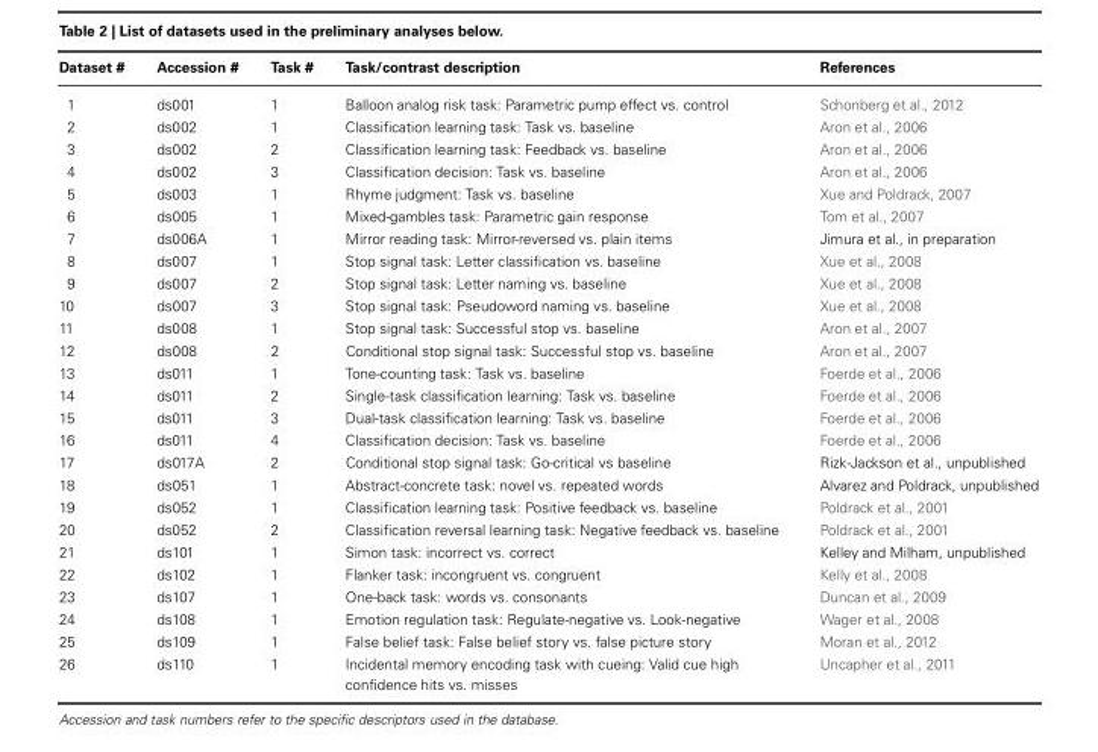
<table><thead><tr><td>Dataset #</td><td>Accession #</td><td>Task #</td><td>Task/contrast description</td><td>References</td></tr></thead><tbody><tr><td>1</td><td>ds001</td><td>1</td><td>Balloon analog risk task: Parametric pump effect vs. control</td><td>Schonberg et al., 2012</td></tr><tr><td>2</td><td>ds002</td><td>1</td><td>Classification learning task: Task vs. baseline</td><td>Aron et al., 2006</td></tr><tr><td>3</td><td>ds002</td><td>2</td><td>Classification learning task: Feedback vs. baseline</td><td>Aron et al., 2006</td></tr><tr><td>4</td><td>ds002</td><td>3</td><td>Classification decision: Task vs. baseline</td><td>Aron et al., 2006</td></tr><tr><td>5</td><td>ds003</td><td>1</td><td>Rhyme judgment: Task vs. baseline</td><td>Xue and Poldrack, 2007</td></tr><tr><td>6</td><td>ds005</td><td>1</td><td>Mixed-gambles task: Parametric gain response</td><td>Tom et al., 2007</td></tr><tr><td>7</td><td>ds006A</td><td>1</td><td>Mirror reading task: Mirror-reversed vs. plain items</td><td>Jimura et al., in preparation</td></tr><tr><td>8</td><td>ds007</td><td>1</td><td>Stop signal task: Letter classification vs. baseline</td><td>Xue et al., 2008</td></tr><tr><td>9</td><td>ds007</td><td>2</td><td>Stop signal task: Letter naming vs. baseline</td><td>Xue et al., 2008</td></tr><tr><td>10</td><td>ds007</td><td>3</td><td>Stop signal task: Pseudoword naming vs. baseline</td><td>Xue et al., 2008</td></tr><tr><td>11</td><td>ds008</td><td>1</td><td>Stop signal task: Successful stop vs. baseline</td><td>Aron et al., 2007</td></tr><tr><td>12</td><td>ds008</td><td>2</td><td>Conditional stop signal task: Successful stop vs. baseline</td><td>Aron et al., 2007</td></tr><tr><td>13</td><td>ds011</td><td>1</td><td>Tone-counting task: Task vs. baseline</td><td>Foerde et al., 2006</td></tr><tr><td>14</td><td>ds011</td><td>2</td><td>Single-task classification learning: Task vs. baseline</td><td>Foerde et al., 2006</td></tr><tr><td>15</td><td>ds011</td><td>3</td><td>Dual-task classification learning: Task vs. baseline</td><td>Foerde et al., 2006</td></tr><tr><td>16</td><td>ds011</td><td>4</td><td>Classification decision: Task vs. baseline</td><td>Foerde et al., 2006</td></tr><tr><td>17</td><td>ds017A</td><td>2</td><td>Conditional stop signal task: Go-critical vs baseline</td><td>Rizk-Jackson et al., unpublished</td></tr><tr><td>18</td><td>ds051</td><td>1</td><td>Abstract-concrete task: novel vs. repeated words</td><td>Alvarez and Poldrack, unpublished</td></tr><tr><td>19</td><td>ds052</td><td>1</td><td>Classification learning task: Positive feedback vs. baseline</td><td>Poldrack et al., 2001</td></tr><tr><td>20</td><td>ds052</td><td>2</td><td>Classification reversal learning task: Negative feedback vs. baseline</td><td>Poldrack et al., 2001</td></tr><tr><td>21</td><td>ds101</td><td>1</td><td>Simon task: incorrect vs. correct</td><td>Kelley and Milham, unpublished</td></tr><tr><td>22</td><td>ds102</td><td>1</td><td>Flanker task: incongruent vs. congruent</td><td>Kelly et al., 2008</td></tr><tr><td>23</td><td>ds107</td><td>1</td><td>One-back task: words vs. consonants</td><td>Duncan et al., 2009</td></tr><tr><td>24</td><td>ds108</td><td>1</td><td>Emotion regulation task: Regulate-negative vs. Look-negative</td><td>Wager et al., 2008</td></tr><tr><td>25</td><td>ds109</td><td>1</td><td>False belief task: False belief story vs. false picture story</td><td>Moran et al., 2012</td></tr><tr><td>26</td><td>ds110</td><td>1</td><td>Incidental memory encoding task with cueing: Valid cue high confidence hits vs. misses</td><td>Uncapher et al., 2011</td></tr></tbody></table>